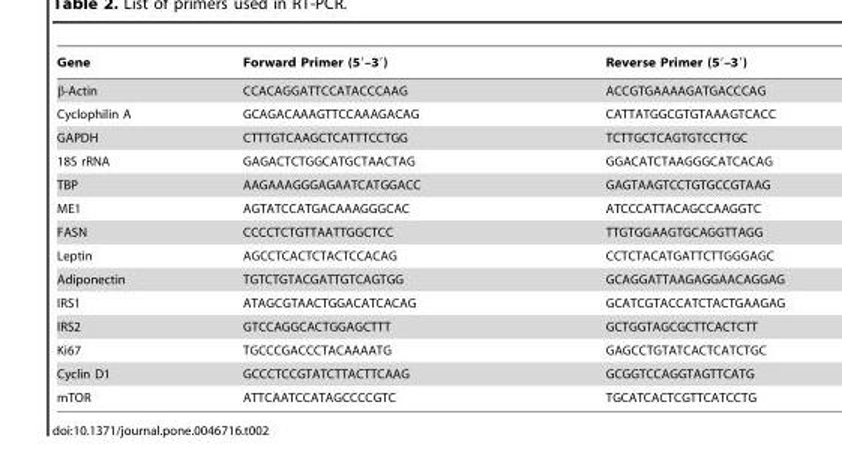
<table><thead><tr><td>Gene</td><td>Forward Primer (5′–3′)</td><td>Reverse Primer (5′–3′)</td></tr></thead><tbody><tr><td>β-Actin</td><td>CCACAGGATTCCATACCCAAG</td><td>ACCGTGAAAAGATGACCCAG</td></tr><tr><td>Cyclophilin A</td><td>GCAGACAAAGTTCCAAAGACAG</td><td>CATTATGGCGTGTAAAGTCACC</td></tr><tr><td>GAPDH</td><td>CTTTGTCAAGCTCATTTCCTGG</td><td>TCTTGCTCAGTGTCCTTGC</td></tr><tr><td>18S rRNA</td><td>GAGACTCTGGCATGCTAACTAG</td><td>GGACATCTAAGGGCATCACAG</td></tr><tr><td>TBP</td><td>AAGAAAGGGAGAATCATGGACC</td><td>GAGTAAGTCCTGTGCCGTAAG</td></tr><tr><td>ME1</td><td>AGTATCCATGACAAAGGGCAC</td><td>ATCCCATTACAGCCAAGGTC</td></tr><tr><td>FASN</td><td>CCCCTCTGTTAATTGGCTCC</td><td>TTGTGGAAGTGCAGGTTAGG</td></tr><tr><td>Leptin</td><td>AGCCTCACTCTACTCCACAG</td><td>CCTCTACATGATTCTTGGGAGC</td></tr><tr><td>Adiponectin</td><td>TGTCTGTACGATTGTCAGTGG</td><td>GCAGGATTAAGAGGAACAGGAG</td></tr><tr><td>IRS1</td><td>ATAGCGTAACTGGACATCACAG</td><td>GCATCGTACCATCTACTGAAGAG</td></tr><tr><td>IRS2</td><td>GTCCAGGCACTGGAGCTTT</td><td>GCTGGTAGCGCTTCACTCTT</td></tr><tr><td>Ki67</td><td>TGCCCGACCCTACAAAATG</td><td>GAGCCTGTATCACTCATCTGC</td></tr><tr><td>Cyclin D1</td><td>GCCCTCCGTATCTTACTTCAAG</td><td>GCGGTCCAGGTAGTTCATG</td></tr><tr><td>mTOR</td><td>ATTCAATCCATAGCCCCGTC</td><td>TGCATCACTCGTTCATCCTG</td></tr></tbody></table>